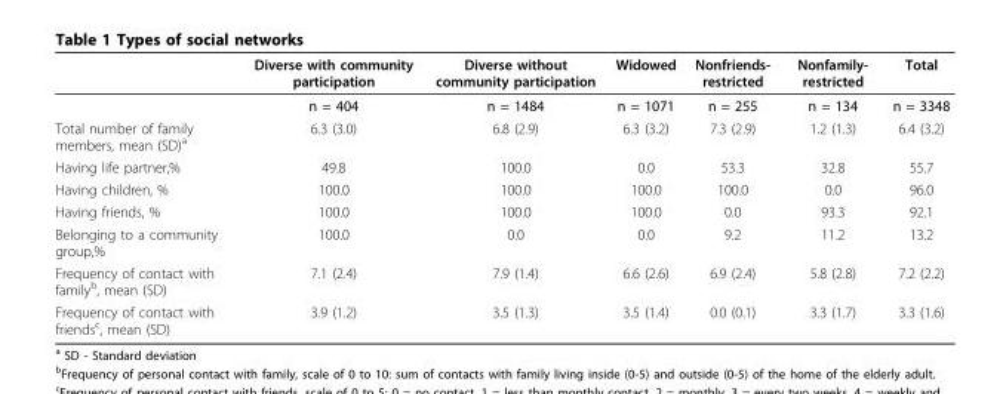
<table><thead><tr><td></td><td>Diverse with community participation</td><td>Diverse without community participation</td><td>Widowed</td><td>Nonfriends- restricted</td><td>Nonfamily- restricted</td><td>Total</td></tr></thead><tbody><tr><td></td><td>n = 404</td><td>n = 1484</td><td>n = 1071</td><td>n = 255</td><td>n = 134</td><td>n = 3348</td></tr><tr><td>Total number of family members, mean (SD)<sup>a</sup></td><td>6.3 (3.0)</td><td>6.8 (2.9)</td><td>6.3 (3.2)</td><td>7.3 (2.9)</td><td>1.2 (1.3)</td><td>6.4 (3.2)</td></tr><tr><td>Having life partner,%</td><td>49.8</td><td>100.0</td><td>0.0</td><td>53.3</td><td>32.8</td><td>55.7</td></tr><tr><td>Having children, %</td><td>100.0</td><td>100.0</td><td>100.0</td><td>100.0</td><td>0.0</td><td>96.0</td></tr><tr><td>Having friends, %</td><td>100.0</td><td>100.0</td><td>100.0</td><td>0.0</td><td>93.3</td><td>92.1</td></tr><tr><td>Belonging to a community group,%</td><td>100.0</td><td>0.0</td><td>0.0</td><td>9.2</td><td>11.2</td><td>13.2</td></tr><tr><td>Frequency of contact with family<sup>b</sup>, mean (SD)</td><td>7.1 (2.4)</td><td>7.9 (1.4)</td><td>6.6 (2.6)</td><td>6.9 (2.4)</td><td>5.8 (2.8)</td><td>7.2 (2.2)</td></tr><tr><td>Frequency of contact with friends<sup>c</sup>, mean (SD)</td><td>3.9 (1.2)</td><td>3.5 (1.3)</td><td>3.5 (1.4)</td><td>0.0 (0.1)</td><td>3.3 (1.7)</td><td>3.3 (1.6)</td></tr></tbody></table>